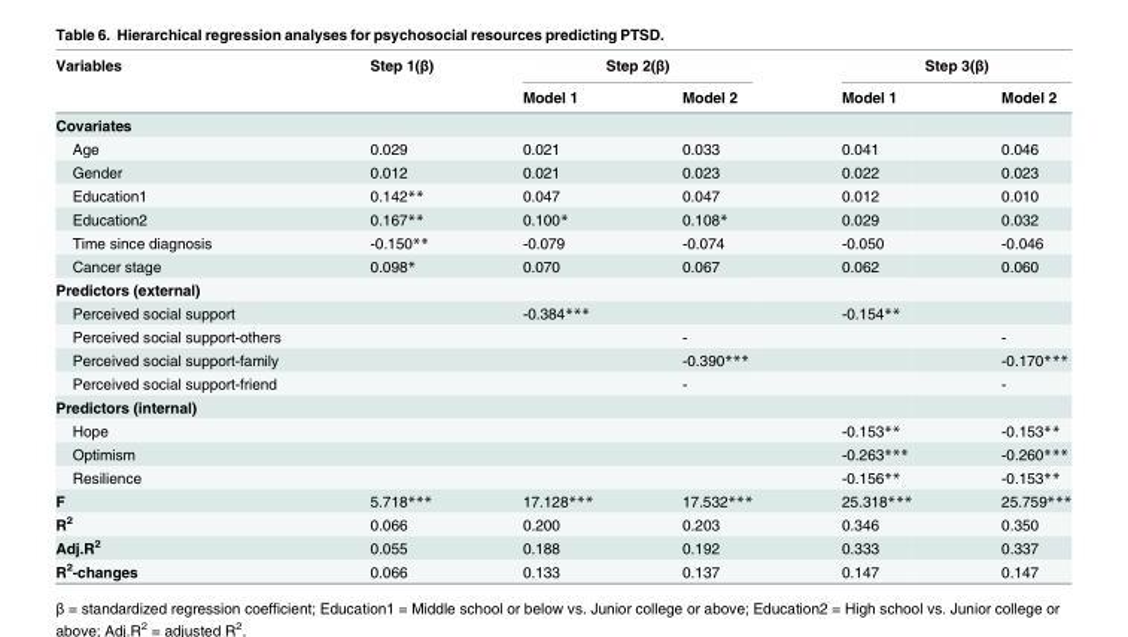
<table><thead><tr><td rowspan="2">Variables</td><td rowspan="2">Step 1(β)</td><td colspan="2">Step 2(β)</td><td colspan="2">Step 3(β)</td></tr><tr><td>Model 1</td><td>Model 2</td><td>Model 1</td><td>Model 2</td></tr></thead><tbody><tr><td colspan="6">Covariates</td></tr><tr><td>Age</td><td>0.029</td><td>0.021</td><td>0.033</td><td>0.041</td><td>0.046</td></tr><tr><td>Gender</td><td>0.012</td><td>0.021</td><td>0.023</td><td>0.022</td><td>0.023</td></tr><tr><td>Education1</td><td>0.142**</td><td>0.047</td><td>0.047</td><td>0.012</td><td>0.010</td></tr><tr><td>Education2</td><td>0.167**</td><td>0.100*</td><td>0.108*</td><td>0.029</td><td>0.032</td></tr><tr><td>Time since diagnosis</td><td>-0.150**</td><td>-0.079</td><td>-0.074</td><td>-0.050</td><td>-0.046</td></tr><tr><td>Cancer stage</td><td>0.098*</td><td>0.070</td><td>0.067</td><td>0.062</td><td>0.060</td></tr><tr><td colspan="6">Predictors (external)</td></tr><tr><td>Perceived social support</td><td></td><td>-0.384***</td><td></td><td>-0.154**</td><td></td></tr><tr><td>Perceived social support-others</td><td></td><td></td><td>-</td><td></td><td>-</td></tr><tr><td>Perceived social support-family</td><td></td><td></td><td>-0.390***</td><td></td><td>-0.170***</td></tr><tr><td>Perceived social support-friend</td><td></td><td></td><td>-</td><td></td><td>-</td></tr><tr><td colspan="6">Predictors (internal)</td></tr><tr><td>Hope</td><td></td><td></td><td></td><td>-0.153**</td><td>-0.153**</td></tr><tr><td>Optimism</td><td></td><td></td><td></td><td>-0.263***</td><td>-0.260***</td></tr><tr><td>Resilience</td><td></td><td></td><td></td><td>-0.156**</td><td>-0.153**</td></tr><tr><td>F</td><td>5.718***</td><td>17.128***</td><td>17.532***</td><td>25.318***</td><td>25.759***</td></tr><tr><td>R<sup>2</sup></td><td>0.066</td><td>0.200</td><td>0.203</td><td>0.346</td><td>0.350</td></tr><tr><td>Adj.R<sup>2</sup></td><td>0.055</td><td>0.188</td><td>0.192</td><td>0.333</td><td>0.337</td></tr><tr><td>R<sup>2</sup>-changes</td><td>0.066</td><td>0.133</td><td>0.137</td><td>0.147</td><td>0.147</td></tr></tbody></table>